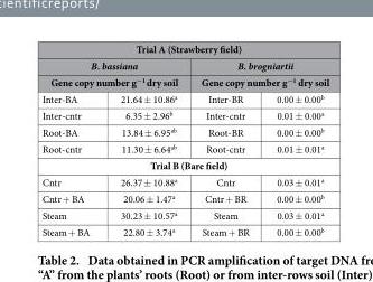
<table><thead><tr><td colspan="4">Trial A (Strawberry field)</td></tr><tr><td rowspan="2" colspan="2">B. bassiana Gene copy number g<sup>−1</sup> dry soil</td><td rowspan="2" colspan="2">B. brogniartii Gene copy number g<sup>−1</sup> dry soil</td></tr><tr></tr><tr><td>Inter-BA</td><td>21.64 ± 10.86<sup>a</sup></td><td>Inter-BR</td><td>0.00 ± 0.00<sup>b</sup></td></tr></thead><tbody><tr><td>Inter-cntr</td><td>6.35 ± 2.96<sup>b</sup></td><td>Inter-cntr</td><td>0.01 ± 0.00<sup>a</sup></td></tr><tr><td>Root-BA</td><td>13.84 ± 6.95<sup>ab</sup></td><td>Root-BR</td><td>0.00 ± 0.00<sup>b</sup></td></tr><tr><td>Root-cntr</td><td>11.30 ± 6.64<sup>ab</sup></td><td>Root-cntr</td><td>0.01 ± 0.01<sup>a</sup></td></tr><tr><td colspan="4">Trial B (Bare field)</td></tr><tr><td>Cntr</td><td>26.37 ± 10.88<sup>a</sup></td><td>Cntr</td><td>0.03 ± 0.01<sup>a</sup></td></tr><tr><td>Cntr + BA</td><td>20.06 ± 1.47<sup>a</sup></td><td>Cntr + BR</td><td>0.00 ± 0.00<sup>b</sup></td></tr><tr><td>Steam</td><td>30.23 ± 10.57<sup>a</sup></td><td>Steam</td><td>0.03 ± 0.01<sup>a</sup></td></tr><tr><td>Steam + BA</td><td>22.80 ± 3.74<sup>a</sup></td><td>Steam + BR</td><td>0.00 ± 0.00<sup>b</sup></td></tr></tbody></table>